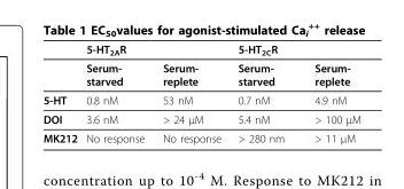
<table><thead><tr><td rowspan="2"></td><td colspan="2">5-HT<sub>2A</sub>R</td><td colspan="2">5-HT<sub>2C</sub>R</td></tr><tr><td>Serum- starved</td><td>Serum- replete</td><td>Serum- starved</td><td>Serum- replete</td></tr></thead><tbody><tr><td>5-HT</td><td>0.8 nM</td><td>53 nM</td><td>0.7 nM</td><td>4.9 nM</td></tr><tr><td>DOI</td><td>3.6 nM</td><td>&gt; 24 μM</td><td>5.4 nM</td><td>&gt; 100 μM</td></tr><tr><td>MK212</td><td>No response</td><td>No response</td><td>&gt; 280 nm</td><td>&gt; 11 μM</td></tr></tbody></table>